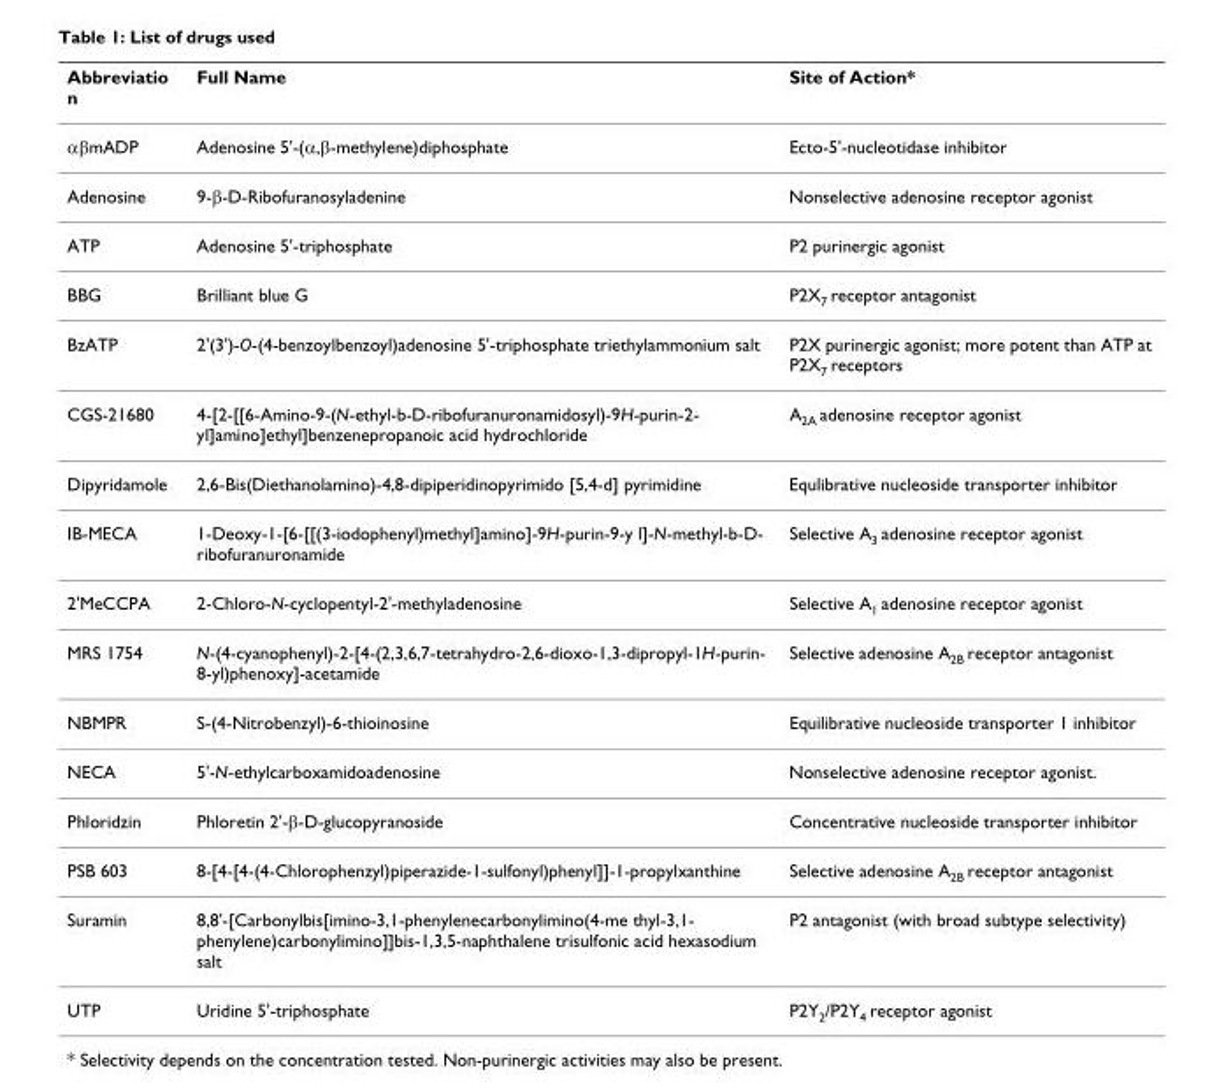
<table><thead><tr><td>Abbreviatio n</td><td>Full Name</td><td>Site of Action*</td></tr></thead><tbody><tr><td>αβmADP</td><td>Adenosine 5&#x27;-(α,β-methylene)diphosphate</td><td>Ecto-5&#x27;-nucleotidase inhibitor</td></tr><tr><td>Adenosine</td><td>9-β-D-Ribofuranosyladenine</td><td>Nonselective adenosine receptor agonist</td></tr><tr><td>ATP</td><td>Adenosine 5&#x27;-triphosphate</td><td>P2 purinergic agonist</td></tr><tr><td>BBG</td><td>Brilliant blue G</td><td>P2X<sub>7</sub> receptor antagonist</td></tr><tr><td>BzATP</td><td>2&#x27;(3&#x27;)-O-(4-benzoylbenzoyl)adenosine 5&#x27;-triphosphate triethylammonium salt</td><td>P2X purinergic agonist; more potent than ATP at P2X<sub>7</sub> receptors</td></tr><tr><td>CGS-21680</td><td>4-[2-[[6-Amino-9-(N-ethyl-b-D-ribofuranuronamidosyl)-9H-purin-2- yl]amino]ethyl]benzenepropanoic acid hydrochloride</td><td>A<sub>2A</sub> adenosine receptor agonist</td></tr><tr><td>Dipyridamole</td><td>2,6-Bis(Diethanolamino)-4,8-dipiperidinopyrimido [5,4-d] pyrimidine</td><td>Equlibrative nucleoside transporter inhibitor</td></tr><tr><td>IB-MECA</td><td>1-Deoxy-1-[6-[[(3-iodophenyl)methyl]amino]-9H-purin-9-y l]-N-methyl-b-D- ribofuranuronamide</td><td>Selective A<sub>3</sub> adenosine receptor agonist</td></tr><tr><td>2&#x27;MeCCPA</td><td>2-Chloro-N-cyclopentyl-2&#x27;-methyladenosine</td><td>Selective A<sub>1</sub> adenosine receptor agonist</td></tr><tr><td>MRS 1754</td><td>N-(4-cyanophenyl)-2-[4-(2,3,6,7-tetrahydro-2,6-dioxo-1,3-dipropyl-1H-purin- 8-yl)phenoxy]-acetamide</td><td>Selective adenosine A<sub>2B</sub> receptor antagonist</td></tr><tr><td>NBMPR</td><td>S-(4-Nitrobenzyl)-6-thioinosine</td><td>Equilibrative nucleoside transporter 1 inhibitor</td></tr><tr><td>NECA</td><td>5&#x27;-N-ethylcarboxamidoadenosine</td><td>Nonselective adenosine receptor agonist.</td></tr><tr><td>Phloridzin</td><td>Phloretin 2&#x27;-β-D-glucopyranoside</td><td>Concentrative nucleoside transporter inhibitor</td></tr><tr><td>PSB 603</td><td>8-[4-[4-(4-Chlorophenzyl)piperazide-1-sulfonyl)phenyl]]-1-propylxanthine</td><td>Selective adenosine A<sub>2B</sub> receptor antagonist</td></tr><tr><td>Suramin</td><td>8,8&#x27;-[Carbonylbis[imino-3,1-phenylenecarbonylimino(4-me thyl-3,1- phenylene)carbonylimino]]bis-1,3,5-naphthalene trisulfonic acid hexasodium salt</td><td>P2 antagonist (with broad subtype selectivity)</td></tr><tr><td>UTP</td><td>Uridine 5&#x27;-triphosphate</td><td>P2Y<sub>2</sub>/P2Y<sub>4</sub> receptor agonist</td></tr></tbody></table>